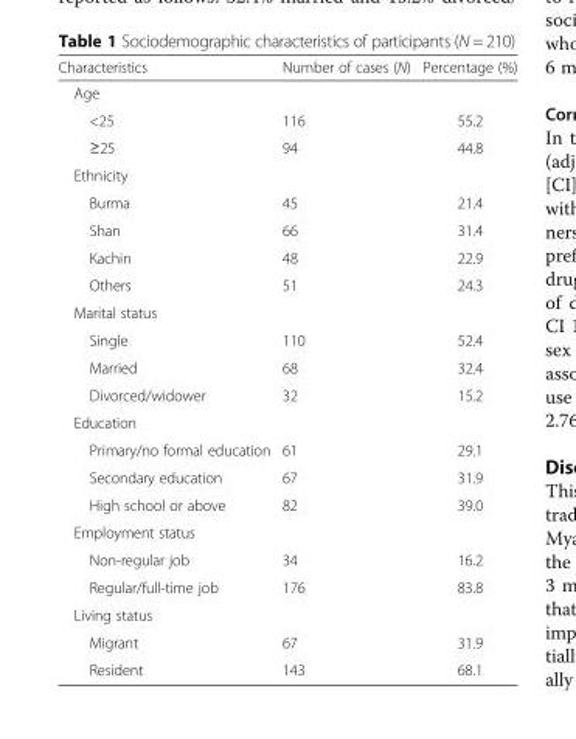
<table><thead><tr><td>Characteristics</td><td>Number of cases (N)</td><td>Percentage (%)</td></tr></thead><tbody><tr><td colspan="3">Age</td></tr><tr><td>&lt;25</td><td>116</td><td>55.2</td></tr><tr><td>≥25</td><td>94</td><td>44.8</td></tr><tr><td colspan="3">Ethnicity</td></tr><tr><td>Burma</td><td>45</td><td>21.4</td></tr><tr><td>Shan</td><td>66</td><td>31.4</td></tr><tr><td>Kachin</td><td>48</td><td>22.9</td></tr><tr><td>Others</td><td>51</td><td>24.3</td></tr><tr><td colspan="3">Marital status</td></tr><tr><td>Single</td><td>110</td><td>52.4</td></tr><tr><td>Married</td><td>68</td><td>32.4</td></tr><tr><td>Divorced/widower</td><td>32</td><td>15.2</td></tr><tr><td colspan="3">Education</td></tr><tr><td>Primary/no formal education</td><td>61</td><td>29.1</td></tr><tr><td>Secondary education</td><td>67</td><td>31.9</td></tr><tr><td>High school or above</td><td>82</td><td>39.0</td></tr><tr><td colspan="3">Employment status</td></tr><tr><td>Non-regular job</td><td>34</td><td>16.2</td></tr><tr><td>Regular/full-time job</td><td>176</td><td>83.8</td></tr><tr><td colspan="3">Living status</td></tr><tr><td>Migrant</td><td>67</td><td>31.9</td></tr><tr><td>Resident</td><td>143</td><td>68.1</td></tr></tbody></table>